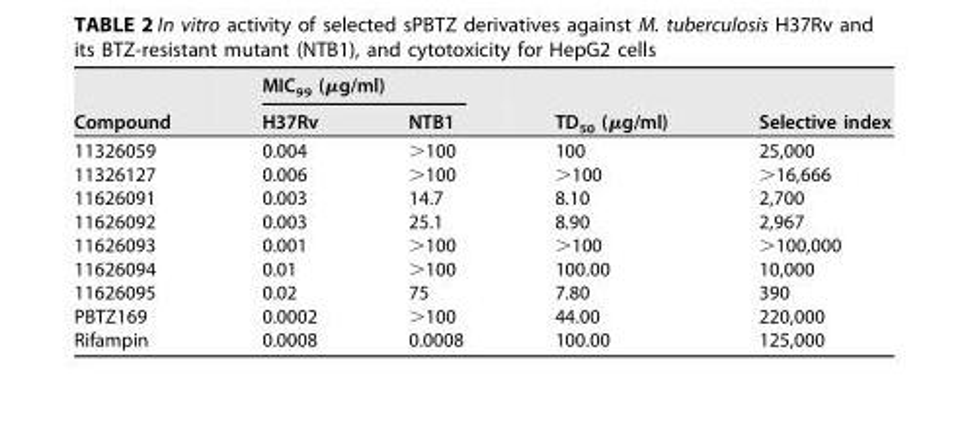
<table><thead><tr><td rowspan="2">Compound</td><td colspan="2">MIC<sub>99</sub> (μg/ml)</td><td rowspan="2">TD<sub>50</sub> (μg/ml)</td><td rowspan="2">Selective index</td></tr><tr><td>H37Rv</td><td>NTB1</td></tr></thead><tbody><tr><td>11326059</td><td>0.004</td><td>&gt;100</td><td>100</td><td>25,000</td></tr><tr><td>11326127</td><td>0.006</td><td>&gt;100</td><td>&gt;100</td><td>&gt;16,666</td></tr><tr><td>11626091</td><td>0.003</td><td>14.7</td><td>8.10</td><td>2,700</td></tr><tr><td>11626092</td><td>0.003</td><td>25.1</td><td>8.90</td><td>2,967</td></tr><tr><td>11626093</td><td>0.001</td><td>&gt;100</td><td>&gt;100</td><td>&gt;100,000</td></tr><tr><td>11626094</td><td>0.01</td><td>&gt;100</td><td>100.00</td><td>10,000</td></tr><tr><td>11626095</td><td>0.02</td><td>75</td><td>7.80</td><td>390</td></tr><tr><td>PBTZ169</td><td>0.0002</td><td>&gt;100</td><td>44.00</td><td>220,000</td></tr><tr><td>Rifampin</td><td>0.0008</td><td>0.0008</td><td>100.00</td><td>125,000</td></tr></tbody></table>